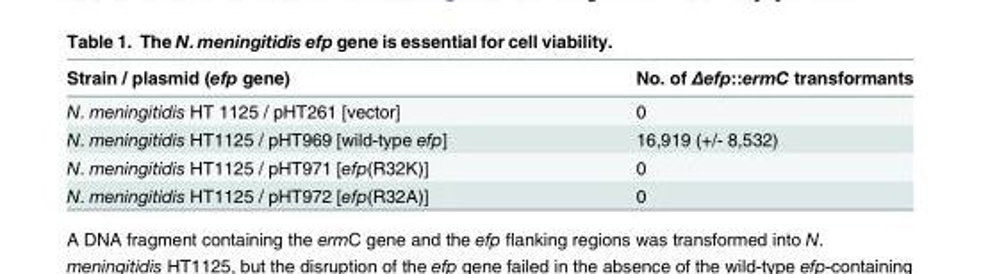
<table><thead><tr><td>Strain / plasmid (efp gene)</td><td>No. of Δefp::ermC transformants</td></tr></thead><tbody><tr><td>N. meningitidis HT 1125 / pHT261 [vector]</td><td>0</td></tr><tr><td>N. meningitidis HT1125 / pHT969 [wild-type efp]</td><td>16,919 (+/- 8,532)</td></tr><tr><td>N. meningitidis HT1125 / pHT971 [efp(R32K)]</td><td>0</td></tr><tr><td>N. meningitidis HT1125 / pHT972 [efp(R32A)]</td><td>0</td></tr></tbody></table>